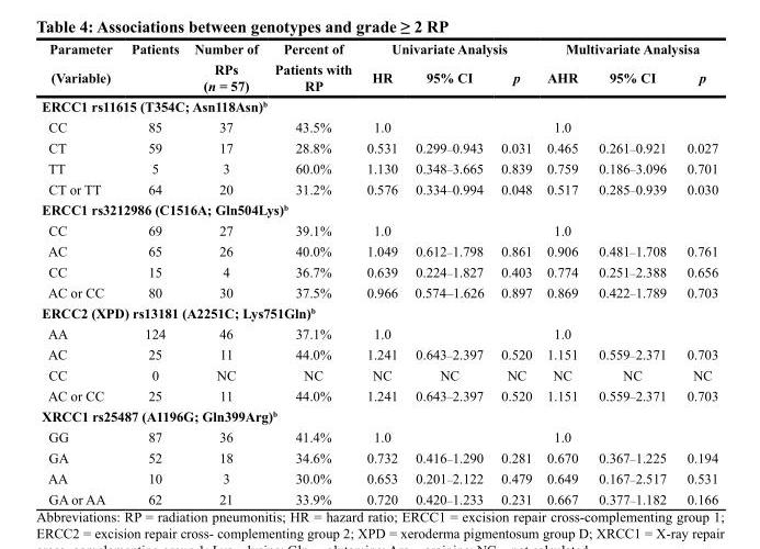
<table><thead><tr><td rowspan="2">Parameter (Variable)</td><td rowspan="2">Patients</td><td rowspan="2">Number of RPs (n = 57)</td><td rowspan="2">Percent of Patients with RP</td><td colspan="3">Univariate Analysis</td><td colspan="3">Multivariate Analysisa</td></tr><tr><td>HR</td><td>95% CI</td><td>p</td><td>AHR</td><td>95% CI</td><td>p</td></tr></thead><tbody><tr><td colspan="10">ERCC1 rs11615 (T354C; Asn118Asn)<sup>b</sup></td></tr><tr><td>CC</td><td>85</td><td>37</td><td>43.5%</td><td>1.0</td><td></td><td></td><td>1.0</td><td></td><td></td></tr><tr><td>CT</td><td>59</td><td>17</td><td>28.8%</td><td>0.531</td><td>0.299–0.943</td><td>0.031</td><td>0.465</td><td>0.261–0.921</td><td>0.027</td></tr><tr><td>TT</td><td>5</td><td>3</td><td>60.0%</td><td>1.130</td><td>0.348–3.665</td><td>0.839</td><td>0.759</td><td>0.186–3.096</td><td>0.701</td></tr><tr><td>CT or TT</td><td>64</td><td>20</td><td>31.2%</td><td>0.576</td><td>0.334–0.994</td><td>0.048</td><td>0.517</td><td>0.285–0.939</td><td>0.030</td></tr><tr><td colspan="10">ERCC1 rs3212986 (C1516A; Gln504Lys)<sup>b</sup></td></tr><tr><td>CC</td><td>69</td><td>27</td><td>39.1%</td><td>1.0</td><td></td><td></td><td>1.0</td><td></td><td></td></tr><tr><td>AC</td><td>65</td><td>26</td><td>40.0%</td><td>1.049</td><td>0.612–1.798</td><td>0.861</td><td>0.906</td><td>0.481–1.708</td><td>0.761</td></tr><tr><td>CC</td><td>15</td><td>4</td><td>36.7%</td><td>0.639</td><td>0.224–1.827</td><td>0.403</td><td>0.774</td><td>0.251–2.388</td><td>0.656</td></tr><tr><td>AC or CC</td><td>80</td><td>30</td><td>37.5%</td><td>0.966</td><td>0.574–1.626</td><td>0.897</td><td>0.869</td><td>0.422–1.789</td><td>0.703</td></tr><tr><td colspan="10">ERCC2 (XPD) rs13181 (A2251C; Lys751Gln)<sup>b</sup></td></tr><tr><td>AA</td><td>124</td><td>46</td><td>37.1%</td><td>1.0</td><td></td><td></td><td>1.0</td><td></td><td></td></tr><tr><td>AC</td><td>25</td><td>11</td><td>44.0%</td><td>1.241</td><td>0.643–2.397</td><td>0.520</td><td>1.151</td><td>0.559–2.371</td><td>0.703</td></tr><tr><td>CC</td><td>0</td><td>NC</td><td>NC</td><td>NC</td><td>NC</td><td>NC</td><td>NC</td><td>NC</td><td>NC</td></tr><tr><td>AC or CC</td><td>25</td><td>11</td><td>44.0%</td><td>1.241</td><td>0.643–2.397</td><td>0.520</td><td>1.151</td><td>0.559–2.371</td><td>0.703</td></tr><tr><td colspan="10">XRCC1 rs25487 (A1196G; Gln399Arg)<sup>b</sup></td></tr><tr><td>GG</td><td>87</td><td>36</td><td>41.4%</td><td>1.0</td><td></td><td></td><td>1.0</td><td></td><td></td></tr><tr><td>GA</td><td>52</td><td>18</td><td>34.6%</td><td>0.732</td><td>0.416–1.290</td><td>0.281</td><td>0.670</td><td>0.367–1.225</td><td>0.194</td></tr><tr><td>AA</td><td>10</td><td>3</td><td>30.0%</td><td>0.653</td><td>0.201–2.122</td><td>0.479</td><td>0.649</td><td>0.167–2.517</td><td>0.531</td></tr><tr><td>GA or AA</td><td>62</td><td>21</td><td>33.9%</td><td>0.720</td><td>0.420–1.233</td><td>0.231</td><td>0.667</td><td>0.377–1.182</td><td>0.166</td></tr></tbody></table>